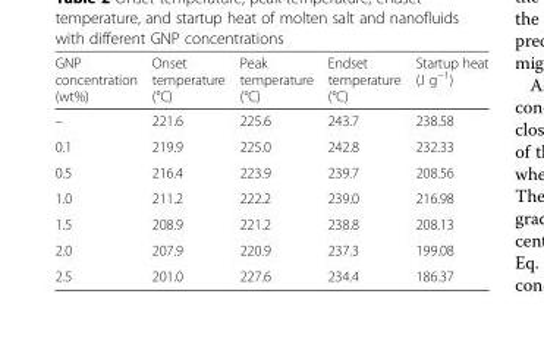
<table><thead><tr><td>GNP concentration (wt%)</td><td>Onset temperature (°C)</td><td>Peak temperature (°C)</td><td>Endset temperature (°C)</td><td>Startup heat (J g<sup>−1</sup>)</td></tr></thead><tbody><tr><td>–</td><td>221.6</td><td>225.6</td><td>243.7</td><td>238.58</td></tr><tr><td>0.1</td><td>219.9</td><td>225.0</td><td>242.8</td><td>232.33</td></tr><tr><td>0.5</td><td>216.4</td><td>223.9</td><td>239.7</td><td>208.56</td></tr><tr><td>1.0</td><td>211.2</td><td>222.2</td><td>239.0</td><td>216.98</td></tr><tr><td>1.5</td><td>208.9</td><td>221.2</td><td>238.8</td><td>208.13</td></tr><tr><td>2.0</td><td>207.9</td><td>220.9</td><td>237.3</td><td>199.08</td></tr><tr><td>2.5</td><td>201.0</td><td>227.6</td><td>234.4</td><td>186.37</td></tr></tbody></table>